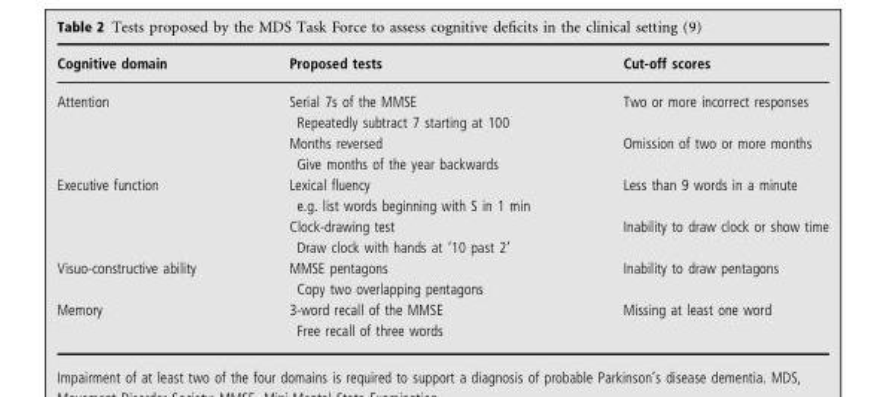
<table><thead><tr><td>Cognitive domain</td><td>Proposed tests</td><td>Cut-off scores</td></tr></thead><tbody><tr><td rowspan="2">Attention</td><td>Serial 7s of the MMSE Repeatedly subtract 7 starting at 100</td><td>Two or more incorrect responses</td></tr><tr><td>Months reversed Give months of the year backwards</td><td>Omission of two or more months</td></tr><tr><td rowspan="2">Executive function</td><td>Lexical fluency e.g. list words beginning with S in 1 min</td><td>Less than 9 words in a minute</td></tr><tr><td>Clock-drawing test Draw clock with hands at ‘10 past 2’</td><td>Inability to draw clock or show time</td></tr><tr><td>Visuo-constructive ability</td><td>MMSE pentagons Copy two overlapping pentagons</td><td>Inability to draw pentagons</td></tr><tr><td>Memory</td><td>3-word recall of the MMSE Free recall of three words</td><td>Missing at least one word</td></tr></tbody></table>